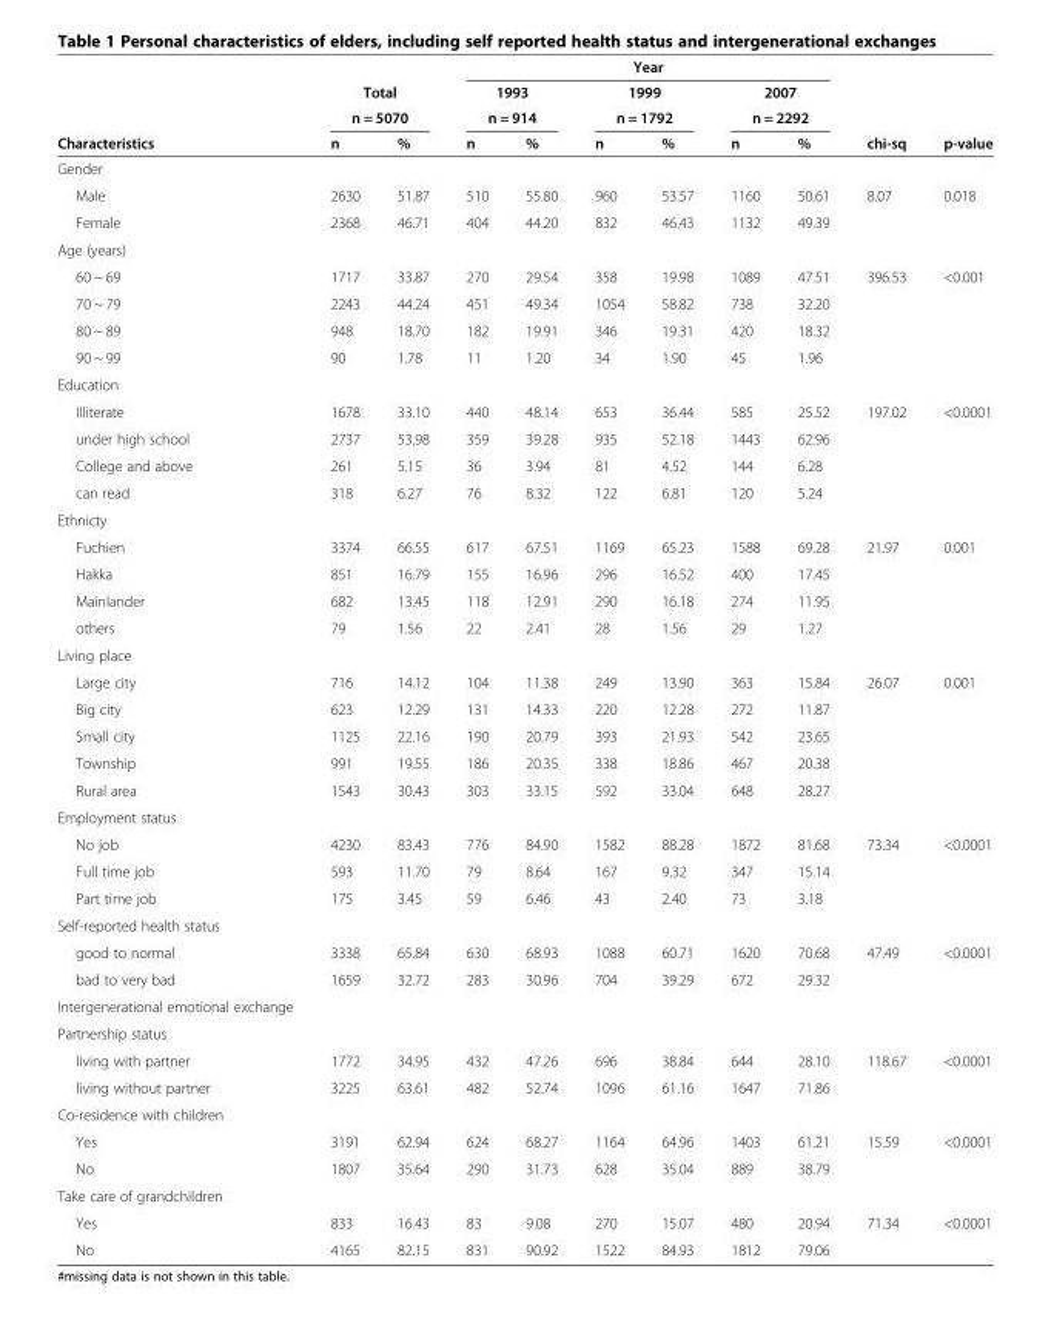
<table><thead><tr><td rowspan="4">Characteristics</td><td></td><td></td><td colspan="6">Year</td><td rowspan="4">chi-sq</td><td rowspan="4">p-value</td></tr><tr><td rowspan="2" colspan="2">Total n = 5070</td><td rowspan="2" colspan="2">1993 n = 914</td><td rowspan="2" colspan="2">1999 n = 1792</td><td rowspan="2" colspan="2">2007 n = 2292</td></tr><tr></tr><tr><td>n</td><td>%</td><td>n</td><td>%</td><td>n</td><td>%</td><td>n</td><td>%</td></tr></thead><tbody><tr><td colspan="11">Gender</td></tr><tr><td>Male</td><td>2630</td><td>51.87</td><td>510</td><td>55.80</td><td>960</td><td>53.57</td><td>1160</td><td>50.61</td><td>8.07</td><td>0.018</td></tr><tr><td>Female</td><td>2368</td><td>46.71</td><td>404</td><td>44.20</td><td>832</td><td>46.43</td><td>1132</td><td>49.39</td><td></td><td></td></tr><tr><td colspan="11">Age (years)</td></tr><tr><td>60 ~ 69</td><td>1717</td><td>33.87</td><td>270</td><td>29.54</td><td>358</td><td>19.98</td><td>1089</td><td>47.51</td><td>396.53</td><td>&lt;0.001</td></tr><tr><td>70 ~ 79</td><td>2243</td><td>44.24</td><td>451</td><td>49.34</td><td>1054</td><td>58.82</td><td>738</td><td>32.20</td><td></td><td></td></tr><tr><td>80 ~ 89</td><td>948</td><td>18.70</td><td>182</td><td>19.91</td><td>346</td><td>19.31</td><td>420</td><td>18.32</td><td></td><td></td></tr><tr><td>90 ~ 99</td><td>90</td><td>1.78</td><td>11</td><td>1.20</td><td>34</td><td>1.90</td><td>45</td><td>1.96</td><td></td><td></td></tr><tr><td colspan="11">Education</td></tr><tr><td>Illiterate</td><td>1678</td><td>33.10</td><td>440</td><td>48.14</td><td>653</td><td>36.44</td><td>585</td><td>25.52</td><td>197.02</td><td>&lt;0.0001</td></tr><tr><td>under high school</td><td>2737</td><td>53.98</td><td>359</td><td>39.28</td><td>935</td><td>52.18</td><td>1443</td><td>62.96</td><td></td><td></td></tr><tr><td>College and above</td><td>261</td><td>5.15</td><td>36</td><td>3.94</td><td>81</td><td>4.52</td><td>144</td><td>6.28</td><td></td><td></td></tr><tr><td>can read</td><td>318</td><td>6.27</td><td>76</td><td>8.32</td><td>122</td><td>6.81</td><td>120</td><td>5.24</td><td></td><td></td></tr><tr><td colspan="11">Ethnicty</td></tr><tr><td>Fuchien</td><td>3374</td><td>66.55</td><td>617</td><td>67.51</td><td>1169</td><td>65.23</td><td>1588</td><td>69.28</td><td>21.97</td><td>0.001</td></tr><tr><td>Hakka</td><td>851</td><td>16.79</td><td>155</td><td>16.96</td><td>296</td><td>16.52</td><td>400</td><td>17.45</td><td></td><td></td></tr><tr><td>Mainlander</td><td>682</td><td>13.45</td><td>118</td><td>12.91</td><td>290</td><td>16.18</td><td>274</td><td>11.95</td><td></td><td></td></tr><tr><td>others</td><td>79</td><td>1.56</td><td>22</td><td>2.41</td><td>28</td><td>1.56</td><td>29</td><td>1.27</td><td></td><td></td></tr><tr><td colspan="11">Living place</td></tr><tr><td>Large city</td><td>716</td><td>14.12</td><td>104</td><td>11.38</td><td>249</td><td>13.90</td><td>363</td><td>15.84</td><td>26.07</td><td>0.001</td></tr><tr><td>Big city</td><td>623</td><td>12.29</td><td>131</td><td>14.33</td><td>220</td><td>12.28</td><td>272</td><td>11.87</td><td></td><td></td></tr><tr><td>Small city</td><td>1125</td><td>22.16</td><td>190</td><td>20.79</td><td>393</td><td>21.93</td><td>542</td><td>23.65</td><td></td><td></td></tr><tr><td>Township</td><td>991</td><td>19.55</td><td>186</td><td>20.35</td><td>338</td><td>18.86</td><td>467</td><td>20.38</td><td></td><td></td></tr><tr><td>Rural area</td><td>1543</td><td>30.43</td><td>303</td><td>33.15</td><td>592</td><td>33.04</td><td>648</td><td>28.27</td><td></td><td></td></tr><tr><td colspan="11">Employment status</td></tr><tr><td>No job</td><td>4230</td><td>83.43</td><td>776</td><td>84.90</td><td>1582</td><td>88.28</td><td>1872</td><td>81.68</td><td>73.34</td><td>&lt;0.0001</td></tr><tr><td>Full time job</td><td>593</td><td>11.70</td><td>79</td><td>8.64</td><td>167</td><td>9.32</td><td>347</td><td>15.14</td><td></td><td></td></tr><tr><td>Part time job</td><td>175</td><td>3.45</td><td>59</td><td>6.46</td><td>43</td><td>2.40</td><td>73</td><td>3.18</td><td></td><td></td></tr><tr><td colspan="11">Self-reported health status</td></tr><tr><td>good to normal</td><td>3338</td><td>65.84</td><td>630</td><td>68.93</td><td>1088</td><td>60.71</td><td>1620</td><td>70.68</td><td>47.49</td><td>&lt;0.0001</td></tr><tr><td>bad to very bad</td><td>1659</td><td>32.72</td><td>283</td><td>30.96</td><td>704</td><td>39.29</td><td>672</td><td>29.32</td><td></td><td></td></tr><tr><td colspan="11">Intergenerational emotional exchange</td></tr><tr><td colspan="11">Partnership status</td></tr><tr><td>living with partner</td><td>1772</td><td>34.95</td><td>432</td><td>47.26</td><td>696</td><td>38.84</td><td>644</td><td>28.10</td><td>118.67</td><td>&lt;0.0001</td></tr><tr><td>living without partner</td><td>3225</td><td>63.61</td><td>482</td><td>52.74</td><td>1096</td><td>61.16</td><td>1647</td><td>71.86</td><td></td><td></td></tr><tr><td colspan="11">Co-residence with children</td></tr><tr><td>Yes</td><td>3191</td><td>62.94</td><td>624</td><td>68.27</td><td>1164</td><td>64.96</td><td>1403</td><td>61.21</td><td>15.59</td><td>&lt;0.0001</td></tr><tr><td>No</td><td>1807</td><td>35.64</td><td>290</td><td>31.73</td><td>628</td><td>35.04</td><td>889</td><td>38.79</td><td></td><td></td></tr><tr><td colspan="11">Take care of grandchildren</td></tr><tr><td>Yes</td><td>833</td><td>16.43</td><td>83</td><td>9.08</td><td>270</td><td>15.07</td><td>480</td><td>20.94</td><td>71.34</td><td>&lt;0.0001</td></tr><tr><td>No</td><td>4165</td><td>82.15</td><td>831</td><td>90.92</td><td>1522</td><td>84.93</td><td>1812</td><td>79.06</td><td></td><td></td></tr></tbody></table>